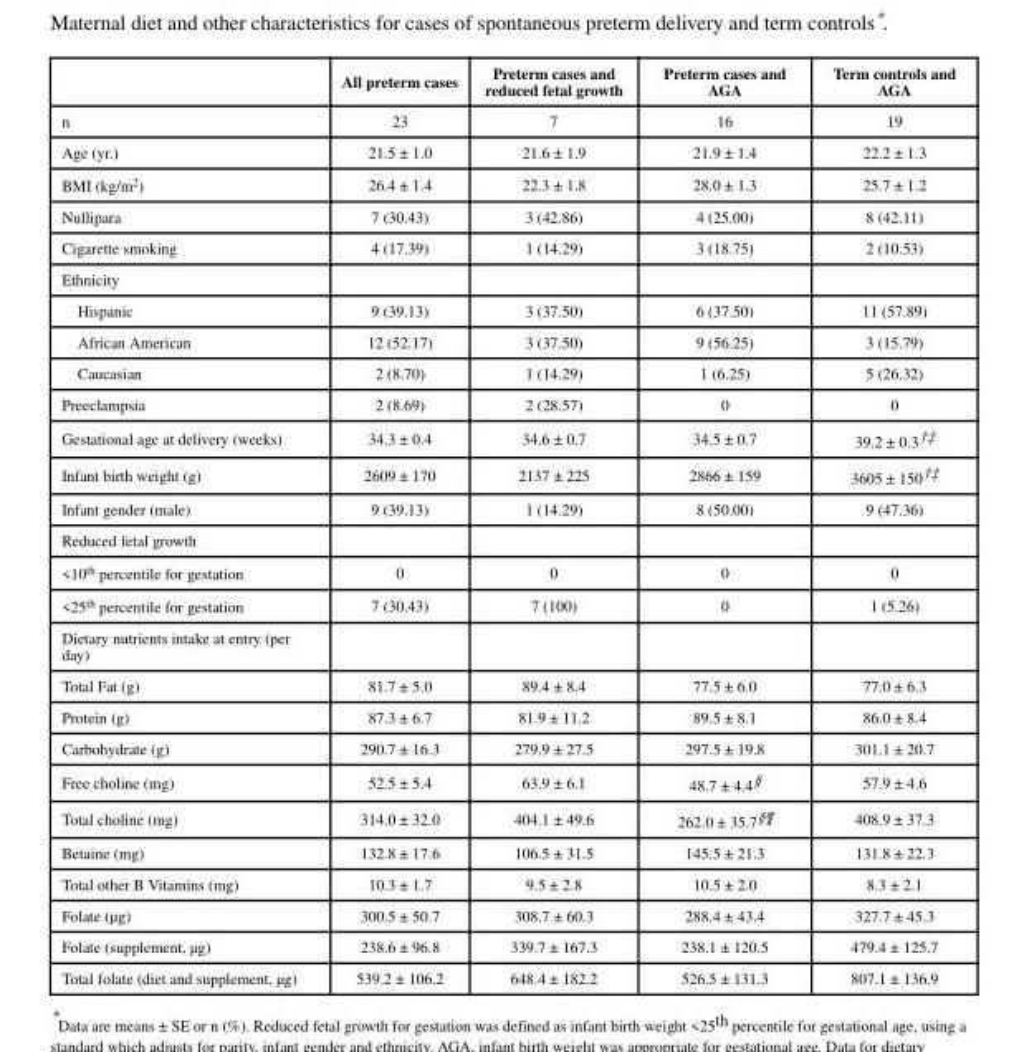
<table><thead><tr><td></td><td>All preterm cases</td><td>Preterm cases and reduced fetal growth</td><td>Preterm cases and AGA</td><td>Term controls and AGA</td></tr></thead><tbody><tr><td>n</td><td>23</td><td>7</td><td>16</td><td>19</td></tr><tr><td>Age (yr.)</td><td>21.5 ± 1.0</td><td>21.6 ± 1.9</td><td>21.9 ± 1.4</td><td>22.2 ± 1.3</td></tr><tr><td>BMI (kg/m<sup>2</sup>)</td><td>26.4 ± 1.4</td><td>22.3 ± 1.8</td><td>28.0 ± 1.3</td><td>25.7 ± 1.2</td></tr><tr><td>Nullipara</td><td>7 (30.43)</td><td>3 (42.86)</td><td>4 (25.00)</td><td>8 (42.11)</td></tr><tr><td>Cigarette smoking</td><td>4 (17.39)</td><td>1 (14.29)</td><td>3 (18.75)</td><td>2 (10.53)</td></tr><tr><td colspan="5">Ethnicity</td></tr><tr><td>Hispanic</td><td>9 (39.13)</td><td>3 (37.50)</td><td>6 (37.50)</td><td>11 (57.89)</td></tr><tr><td>African American</td><td>12 (52.17)</td><td>3 (37.50)</td><td>9 (56.25)</td><td>3 (15.79)</td></tr><tr><td>Caucasian</td><td>2 (8.70)</td><td>1 (14.29)</td><td>1 (6.25)</td><td>5 (26.32)</td></tr><tr><td>Preeclampsia</td><td>2 (8.69)</td><td>2 (28.57)</td><td>0</td><td>0</td></tr><tr><td>Gestational age at delivery (weeks)</td><td>34.3 ± 0.4</td><td>34.6 ± 0.7</td><td>34.5 ± 0.7</td><td>39.2 ± 0.3†‡</td></tr><tr><td>Infant birth weight (g)</td><td>2609 ± 170</td><td>2137 ± 225</td><td>2866 ± 159</td><td>3605 ± 150†‡</td></tr><tr><td>Infant gender (male)</td><td>9 (39.13)</td><td>1 (14.29)</td><td>8 (50.00)</td><td>9 (47.36)</td></tr><tr><td colspan="5">Reduced fetal growth</td></tr><tr><td>&lt;10<sup>th</sup> percentile for gestation</td><td>0</td><td>0</td><td>0</td><td>0</td></tr><tr><td>&lt;25<sup>th</sup> percentile for gestation</td><td>7 (30.43)</td><td>7 (100)</td><td>0</td><td>1 (5.26)</td></tr><tr><td colspan="5">Dietary nutrients intake at entry (per day)</td></tr><tr><td>Total Fat (g)</td><td>81.7 ± 5.0</td><td>89.4 ± 8.4</td><td>77.5 ± 6.0</td><td>77.0 ± 6.3</td></tr><tr><td>Protein (g)</td><td>87.3 ± 6.7</td><td>81.9 ± 11.2</td><td>89.5 ± 8.1</td><td>86.0 ± 8.4</td></tr><tr><td>Carbohydrate (g)</td><td>290.7 ± 16.3</td><td>279.9 ± 27.5</td><td>297.5 ± 19.8</td><td>301.1 ± 20.7</td></tr><tr><td>Free choline (mg)</td><td>52.5 ± 5.4</td><td>63.9 ± 6.1</td><td>48.7 ± 4.4§</td><td>57.9 ± 4.6</td></tr><tr><td>Total choline (mg)</td><td>314.0 ± 32.0</td><td>404.1 ± 49.6</td><td>262.0 ± 35.7§¶</td><td>408.9 ± 37.3</td></tr><tr><td>Betaine (mg)</td><td>132.8 ± 17.6</td><td>106.5 ± 31.5</td><td>145.5 ± 21.3</td><td>131.8 ± 22.3</td></tr><tr><td>Total other B Vitamins (mg)</td><td>10.3 ± 1.7</td><td>9.5 ± 2.8</td><td>10.5 ± 2.0</td><td>8.3 ± 2.1</td></tr><tr><td>Folate (μg)</td><td>300.5 ± 50.7</td><td>308.7 ± 60.3</td><td>288.4 ± 43.4</td><td>327.7 ± 45.3</td></tr><tr><td>Folate (supplement, μg)</td><td>238.6 ± 96.8</td><td>339.7 ± 167.3</td><td>238.1 ± 120.5</td><td>479.4 ± 125.7</td></tr><tr><td>Total folate (diet and supplement, μg)</td><td>539.2 ± 106.2</td><td>648.4 ± 182.2</td><td>526.5 ± 131.3</td><td>807.1 ± 136.9</td></tr></tbody></table>